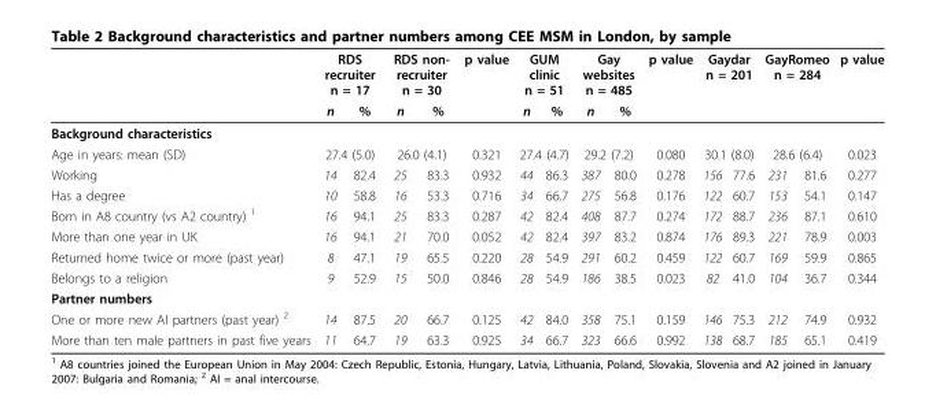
<table><thead><tr><td rowspan="2"></td><td colspan="2">RDS recruiter n = 17</td><td colspan="2">RDS non- recruiter n = 30</td><td rowspan="2">p value</td><td colspan="2">GUM clinic n = 51</td><td colspan="2">Gay websites n = 485</td><td rowspan="2">p value</td><td colspan="2">Gaydar n = 201</td><td colspan="2">GayRomeo n = 284</td><td rowspan="2">p value</td></tr><tr><td>n</td><td>%</td><td>n</td><td>%</td><td>n</td><td>%</td><td>n</td><td>%</td><td></td><td></td><td></td><td></td></tr></thead><tbody><tr><td colspan="16">Background characteristics</td></tr><tr><td>Age in years: mean (SD)</td><td colspan="2">27.4 (5.0)</td><td colspan="2">26.0 (4.1)</td><td>0.321</td><td colspan="2">27.4 (4.7)</td><td colspan="2">29.2 (7.2)</td><td>0.080</td><td colspan="2">30.1 (8.0)</td><td colspan="2">28.6 (6.4)</td><td>0.023</td></tr><tr><td>Working</td><td>14</td><td>82.4</td><td>25</td><td>83.3</td><td>0.932</td><td>44</td><td>86.3</td><td>387</td><td>80.0</td><td>0.278</td><td>156</td><td>77.6</td><td>231</td><td>81.6</td><td>0.277</td></tr><tr><td>Has a degree</td><td>10</td><td>58.8</td><td>16</td><td>53.3</td><td>0.716</td><td>34</td><td>66.7</td><td>275</td><td>56.8</td><td>0.176</td><td>122</td><td>60.7</td><td>153</td><td>54.1</td><td>0.147</td></tr><tr><td>Born in A8 country (vs A2 country) <sup>1</sup></td><td>16</td><td>94.1</td><td>25</td><td>83.3</td><td>0.287</td><td>42</td><td>82.4</td><td>408</td><td>87.7</td><td>0.274</td><td>172</td><td>88.7</td><td>236</td><td>87.1</td><td>0.610</td></tr><tr><td>More than one year in UK</td><td>16</td><td>94.1</td><td>21</td><td>70.0</td><td>0.052</td><td>42</td><td>82.4</td><td>397</td><td>83.2</td><td>0.874</td><td>176</td><td>89.3</td><td>221</td><td>78.9</td><td>0.003</td></tr><tr><td>Returned home twice or more (past year)</td><td>8</td><td>47.1</td><td>19</td><td>65.5</td><td>0.220</td><td>28</td><td>54.9</td><td>291</td><td>60.2</td><td>0.459</td><td>122</td><td>60.7</td><td>169</td><td>59.9</td><td>0.865</td></tr><tr><td>Belongs to a religion</td><td>9</td><td>52.9</td><td>15</td><td>50.0</td><td>0.846</td><td>28</td><td>54.9</td><td>186</td><td>38.5</td><td>0.023</td><td>82</td><td>41.0</td><td>104</td><td>36.7</td><td>0.344</td></tr><tr><td colspan="16">Partner numbers</td></tr><tr><td>One or more new AI partners (past year) <sup>2</sup></td><td>14</td><td>87.5</td><td>20</td><td>66.7</td><td>0.125</td><td>42</td><td>84.0</td><td>358</td><td>75.1</td><td>0.159</td><td>146</td><td>75.3</td><td>212</td><td>74.9</td><td>0.932</td></tr><tr><td>More than ten male partners in past five years</td><td>11</td><td>64.7</td><td>19</td><td>63.3</td><td>0.925</td><td>34</td><td>66.7</td><td>323</td><td>66.6</td><td>0.992</td><td>138</td><td>68.7</td><td>185</td><td>65.1</td><td>0.419</td></tr></tbody></table>